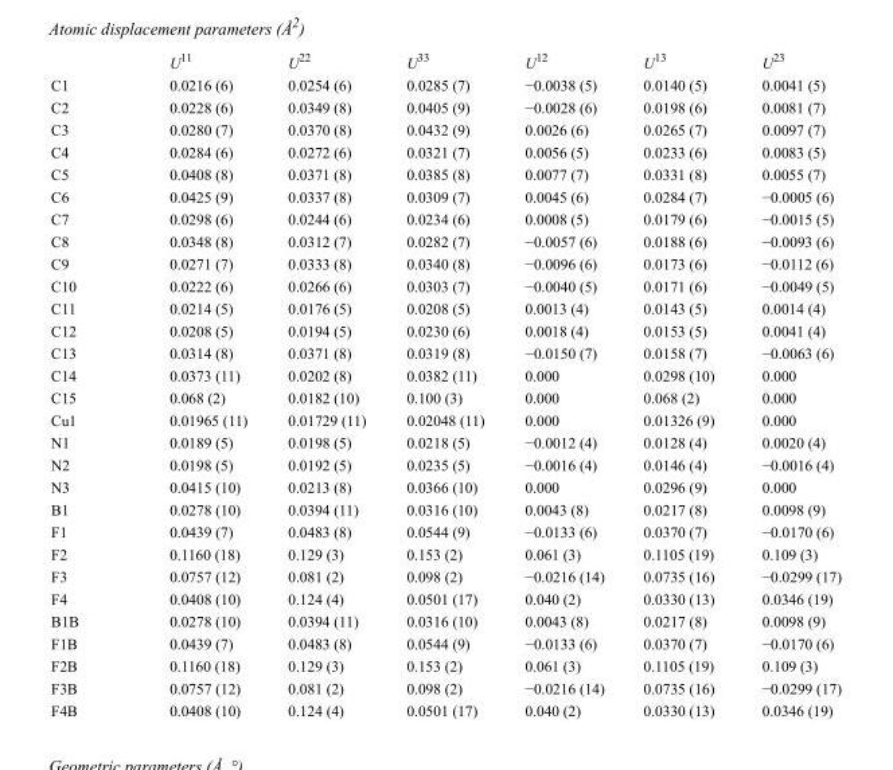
<table><thead><tr><td></td><td>U<sup>11</sup></td><td>U<sup>22</sup></td><td>U<sup>33</sup></td><td>U<sup>12</sup></td><td>U<sup>13</sup></td><td>U<sup>23</sup></td></tr></thead><tbody><tr><td>C1</td><td>0.0216 (6)</td><td>0.0254 (6)</td><td>0.0285 (7)</td><td>−0.0038 (5)</td><td>0.0140 (5)</td><td>0.0041 (5)</td></tr><tr><td>C2</td><td>0.0228 (6)</td><td>0.0349 (8)</td><td>0.0405 (9)</td><td>−0.0028 (6)</td><td>0.0198 (6)</td><td>0.0081 (7)</td></tr><tr><td>C3</td><td>0.0280 (7)</td><td>0.0370 (8)</td><td>0.0432 (9)</td><td>0.0026 (6)</td><td>0.0265 (7)</td><td>0.0097 (7)</td></tr><tr><td>C4</td><td>0.0284 (6)</td><td>0.0272 (6)</td><td>0.0321 (7)</td><td>0.0056 (5)</td><td>0.0233 (6)</td><td>0.0083 (5)</td></tr><tr><td>C5</td><td>0.0408 (8)</td><td>0.0371 (8)</td><td>0.0385 (8)</td><td>0.0077 (7)</td><td>0.0331 (8)</td><td>0.0055 (7)</td></tr><tr><td>C6</td><td>0.0425 (9)</td><td>0.0337 (8)</td><td>0.0309 (7)</td><td>0.0045 (6)</td><td>0.0284 (7)</td><td>−0.0005 (6)</td></tr><tr><td>C7</td><td>0.0298 (6)</td><td>0.0244 (6)</td><td>0.0234 (6)</td><td>0.0008 (5)</td><td>0.0179 (6)</td><td>−0.0015 (5)</td></tr><tr><td>C8</td><td>0.0348 (8)</td><td>0.0312 (7)</td><td>0.0282 (7)</td><td>−0.0057 (6)</td><td>0.0188 (6)</td><td>−0.0093 (6)</td></tr><tr><td>C9</td><td>0.0271 (7)</td><td>0.0333 (8)</td><td>0.0340 (8)</td><td>−0.0096 (6)</td><td>0.0173 (6)</td><td>−0.0112 (6)</td></tr><tr><td>C10</td><td>0.0222 (6)</td><td>0.0266 (6)</td><td>0.0303 (7)</td><td>−0.0040 (5)</td><td>0.0171 (6)</td><td>−0.0049 (5)</td></tr><tr><td>C11</td><td>0.0214 (5)</td><td>0.0176 (5)</td><td>0.0208 (5)</td><td>0.0013 (4)</td><td>0.0143 (5)</td><td>0.0014 (4)</td></tr><tr><td>C12</td><td>0.0208 (5)</td><td>0.0194 (5)</td><td>0.0230 (6)</td><td>0.0018 (4)</td><td>0.0153 (5)</td><td>0.0041 (4)</td></tr><tr><td>C13</td><td>0.0314 (8)</td><td>0.0371 (8)</td><td>0.0319 (8)</td><td>−0.0150 (7)</td><td>0.0158 (7)</td><td>−0.0063 (6)</td></tr><tr><td>C14</td><td>0.0373 (11)</td><td>0.0202 (8)</td><td>0.0382 (11)</td><td>0.000</td><td>0.0298 (10)</td><td>0.000</td></tr><tr><td>C15</td><td>0.068 (2)</td><td>0.0182 (10)</td><td>0.100 (3)</td><td>0.000</td><td>0.068 (2)</td><td>0.000</td></tr><tr><td>Cu1</td><td>0.01965 (11)</td><td>0.01729 (11)</td><td>0.02048 (11)</td><td>0.000</td><td>0.01326 (9)</td><td>0.000</td></tr><tr><td>N1</td><td>0.0189 (5)</td><td>0.0198 (5)</td><td>0.0218 (5)</td><td>−0.0012 (4)</td><td>0.0128 (4)</td><td>0.0020 (4)</td></tr><tr><td>N2</td><td>0.0198 (5)</td><td>0.0192 (5)</td><td>0.0235 (5)</td><td>−0.0016 (4)</td><td>0.0146 (4)</td><td>−0.0016 (4)</td></tr><tr><td>N3</td><td>0.0415 (10)</td><td>0.0213 (8)</td><td>0.0366 (10)</td><td>0.000</td><td>0.0296 (9)</td><td>0.000</td></tr><tr><td>B1</td><td>0.0278 (10)</td><td>0.0394 (11)</td><td>0.0316 (10)</td><td>0.0043 (8)</td><td>0.0217 (8)</td><td>0.0098 (9)</td></tr><tr><td>F1</td><td>0.0439 (7)</td><td>0.0483 (8)</td><td>0.0544 (9)</td><td>−0.0133 (6)</td><td>0.0370 (7)</td><td>−0.0170 (6)</td></tr><tr><td>F2</td><td>0.1160 (18)</td><td>0.129 (3)</td><td>0.153 (2)</td><td>0.061 (3)</td><td>0.1105 (19)</td><td>0.109 (3)</td></tr><tr><td>F3</td><td>0.0757 (12)</td><td>0.081 (2)</td><td>0.098 (2)</td><td>−0.0216 (14)</td><td>0.0735 (16)</td><td>−0.0299 (17)</td></tr><tr><td>F4</td><td>0.0408 (10)</td><td>0.124 (4)</td><td>0.0501 (17)</td><td>0.040 (2)</td><td>0.0330 (13)</td><td>0.0346 (19)</td></tr><tr><td>B1B</td><td>0.0278 (10)</td><td>0.0394 (11)</td><td>0.0316 (10)</td><td>0.0043 (8)</td><td>0.0217 (8)</td><td>0.0098 (9)</td></tr><tr><td>F1B</td><td>0.0439 (7)</td><td>0.0483 (8)</td><td>0.0544 (9)</td><td>−0.0133 (6)</td><td>0.0370 (7)</td><td>−0.0170 (6)</td></tr><tr><td>F2B</td><td>0.1160 (18)</td><td>0.129 (3)</td><td>0.153 (2)</td><td>0.061 (3)</td><td>0.1105 (19)</td><td>0.109 (3)</td></tr><tr><td>F3B</td><td>0.0757 (12)</td><td>0.081 (2)</td><td>0.098 (2)</td><td>−0.0216 (14)</td><td>0.0735 (16)</td><td>−0.0299 (17)</td></tr><tr><td>F4B</td><td>0.0408 (10)</td><td>0.124 (4)</td><td>0.0501 (17)</td><td>0.040 (2)</td><td>0.0330 (13)</td><td>0.0346 (19)</td></tr></tbody></table>